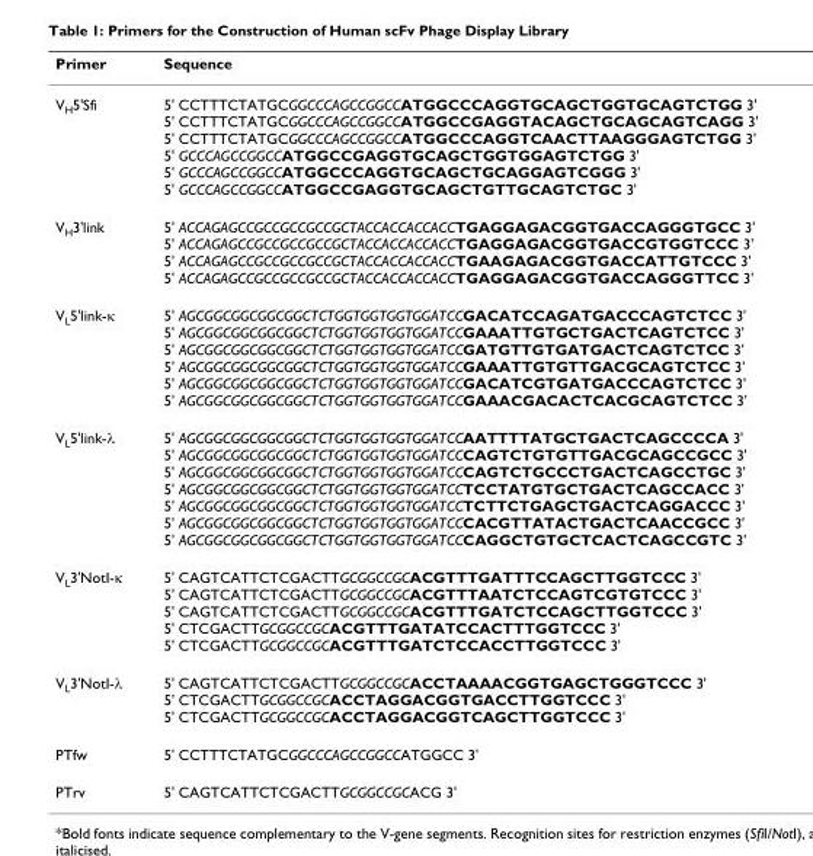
<table><thead><tr><td>Primer</td><td>Sequence</td></tr></thead><tbody><tr><td>V<sub>H</sub>5&#x27;Sfi</td><td>5&#x27; CCTTTCTATGCGGCCCAGCCGGCCATGGCCCAGGTGCAGCTGGTGCAGTCTGG 3&#x27; 5&#x27; CCTTTCTATGCGGCCCAGCCGGCCATGGCCGAGGTACAGCTGCAGCAGTCAGG 3&#x27; 5&#x27; CCTTTCTATGCGGCCCAGCCGGCCATGGCCCAGGTCAACTTAAGGGAGTCTGG 3&#x27; 5&#x27; GCCCAGCCGGCCATGGCCGAGGTGCAGCTGGTGGAGTCTGG 3&#x27; 5&#x27; GCCCAGCCGGCCATGGCCCAGGTGCAGCTGCAGGAGTCGGG 3&#x27; 5&#x27; GCCCAGCCGGCCATGGCCGAGGTGCAGCTGTTGCAGTCTGC 3&#x27;</td></tr><tr><td>V<sub>H</sub>3&#x27;link</td><td>5&#x27; ACCAGAGCCGCCGCCGCCGCTACCACCACCACCTGAGGAGACGGTGACCAGGGTGCC 3&#x27; 5&#x27; ACCAGAGCCGCCGCCGCCGCTACCACCACCACCTGAGGAGACGGTGACCGTGGTCCC 3&#x27; 5&#x27; ACCAGAGCCGCCGCCGCCGCTACCACCACCACCTGAAGAGACGGTGACCATTGTCCC 3&#x27; 5&#x27; ACCAGAGCCGCCGCCGCCGCTACCACCACCACCTGAGGAGACGGTGACCAGGGTTCC 3&#x27;</td></tr><tr><td>V<sub>L</sub>5&#x27;link-κ</td><td>5&#x27; AGCGGCGGCGGCGGCTCTGGTGGTGGTGGATCCGACATCCAGATGACCCAGTCTCC 3&#x27; 5&#x27; AGCGGCGGCGGCGGCTCTGGTGGTGGTGGATCCGAAATTGTGCTGACTCAGTCTCC 3&#x27; 5&#x27; AGCGGCGGCGGCGGCTCTGGTGGTGGTGGATCCGATGTTGTGATGACTCAGTCTCC 3&#x27; 5&#x27; AGCGGCGGCGGCGGCTCTGGTGGTGGTGGATCCGAAATTGTGTTGACGCAGTCTCC 3&#x27; 5&#x27; AGCGGCGGCGGCGGCTCTGGTGGTGGTGGATCCGACATCGTGATGACCCAGTCTCC 3&#x27; 5&#x27; AGCGGCGGCGGCGGCTCTGGTGGTGGTGGATCCGAAACGACACTCACGCAGTCTCC 3&#x27;</td></tr><tr><td>V<sub>L</sub>5&#x27;link-λ</td><td>5&#x27; AGCGGCGGCGGCGGCTCTGGTGGTGGTGGATCCAATTTTATGCTGACTCAGCCCCA 3&#x27; 5&#x27; AGCGGCGGCGGCGGCTCTGGTGGTGGTGGATCCCAGTCTGTGTTGACGCAGCCGCC 3&#x27; 5&#x27; AGCGGCGGCGGCGGCTCTGGTGGTGGTGGATCCCAGTCTGCCCTGACTCAGCCTGC 3&#x27; 5&#x27; AGCGGCGGCGGCGGCTCTGGTGGTGGTGGATCCTCCTATGTGCTGACTCAGCCACC 3&#x27; 5&#x27; AGCGGCGGCGGCGGCTCTGGTGGTGGTGGATCCTCTTCTGAGCTGACTCAGGACCC 3&#x27; 5&#x27; AGCGGCGGCGGCGGCTCTGGTGGTGGTGGATCCCACGTTATACTGACTCAACCGCC 3&#x27; 5&#x27; AGCGGCGGCGGCGGCTCTGGTGGTGGTGGATCCCAGGCTGTGCTCACTCAGCCGTC 3&#x27;</td></tr><tr><td>V<sub>L</sub>3&#x27;NotI-κ</td><td>5&#x27; CAGTCATTCTCGACTTGCGGCCGCACGTTTGATTTCCAGCTTGGTCCC 3&#x27; 5&#x27; CAGTCATTCTCGACTTGCGGCCGCACGTTTAATCTCCAGTCGTGTCCC 3&#x27; 5&#x27; CAGTCATTCTCGACTTGCGGCCGCACGTTTGATCTCCAGCTTGGTCCC 3&#x27; 5&#x27; CTCGACTTGCGGCCGCACGTTTGATATCCACTTTGGTCCC 3&#x27; 5&#x27; CTCGACTTGCGGCCGCACGTTTGATCTCCACCTTGGTCCC 3&#x27;</td></tr><tr><td>V<sub>L</sub>3&#x27;NotI-λ</td><td>5&#x27; CAGTCATTCTCGACTTGCGGCCGCACCTAAAACGGTGAGCTGGGTCCC 3&#x27; 5&#x27; CTCGACTTGCGGCCGCACCTAGGACGGTGACCTTGGTCCC 3&#x27; 5&#x27; CTCGACTTGCGGCCGCACCTAGGACGGTCAGCTTGGTCCC 3&#x27;</td></tr><tr><td>PTfw</td><td>5&#x27; CCTTTCTATGCGGCCCAGCCGGCCATGGCC 3&#x27;</td></tr><tr><td>PTrv</td><td>5&#x27; CAGTCATTCTCGACTTGCGGCCGCACG 3&#x27;</td></tr></tbody></table>